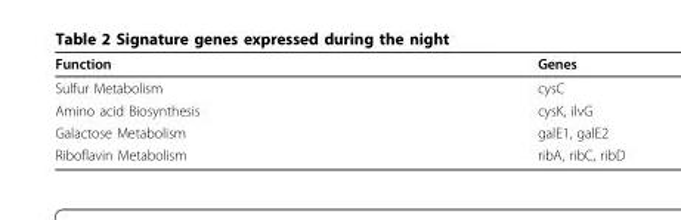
<table><thead><tr><td>Function</td><td>Genes</td></tr></thead><tbody><tr><td>Sulfur Metabolism</td><td>cysC</td></tr><tr><td>Amino acid Biosynthesis</td><td>cysK, ilvG</td></tr><tr><td>Galactose Metabolism</td><td>galE1, galE2</td></tr><tr><td>Riboflavin Metabolism</td><td>ribA, ribC, ribD</td></tr></tbody></table>